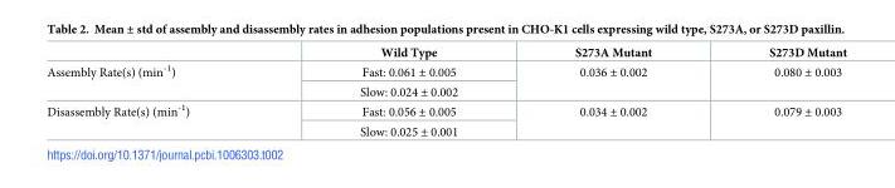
<table><thead><tr><td></td><td>Wild Type</td><td>S273A Mutant</td><td>S273D Mutant</td></tr></thead><tbody><tr><td rowspan="2">Assembly Rate(s) (min<sup>-1</sup>)</td><td>Fast: 0.061 ± 0.005</td><td rowspan="2">0.036 ± 0.002</td><td rowspan="2">0.080 ± 0.003</td></tr><tr><td>Slow: 0.024 ± 0.002</td></tr><tr><td rowspan="2">Disassembly Rate(s) (min<sup>-1</sup>)</td><td>Fast: 0.056 ± 0.005</td><td rowspan="2">0.034 ± 0.002</td><td rowspan="2">0.079 ± 0.003</td></tr><tr><td>Slow: 0.025 ± 0.001</td></tr></tbody></table>